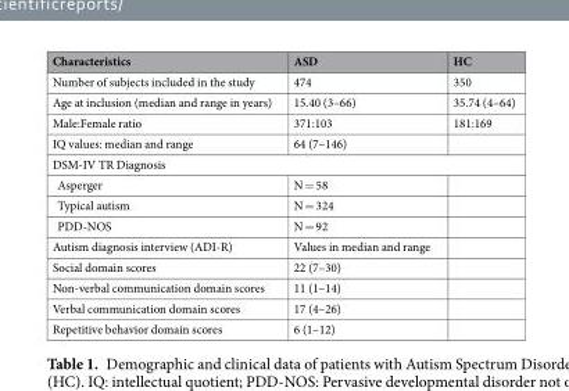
<table><thead><tr><td>Characteristics</td><td>ASD</td><td>HC</td></tr></thead><tbody><tr><td>Number of subjects included in the study</td><td>474</td><td>350</td></tr><tr><td>Age at inclusion (median and range in years)</td><td>15.40 (3–66)</td><td>35.74 (4–64)</td></tr><tr><td>Male:Female ratio</td><td>371:103</td><td>181:169</td></tr><tr><td>IQ values: median and range</td><td>64 (7–146)</td><td></td></tr><tr><td colspan="3">DSM-IV TR Diagnosis</td></tr><tr><td>Asperger</td><td>N = 58</td><td></td></tr><tr><td>Typical autism</td><td>N = 324</td><td></td></tr><tr><td>PDD-NOS</td><td>N = 92</td><td></td></tr><tr><td>Autism diagnosis interview (ADI-R)</td><td>Values in median and range</td><td></td></tr><tr><td>Social domain scores</td><td>22 (7–30)</td><td></td></tr><tr><td>Non-verbal communication domain scores</td><td>11 (1–14)</td><td></td></tr><tr><td>Verbal communication domain scores</td><td>17 (4–26)</td><td></td></tr><tr><td>Repetitive behavior domain scores</td><td>6 (1–12)</td><td></td></tr></tbody></table>